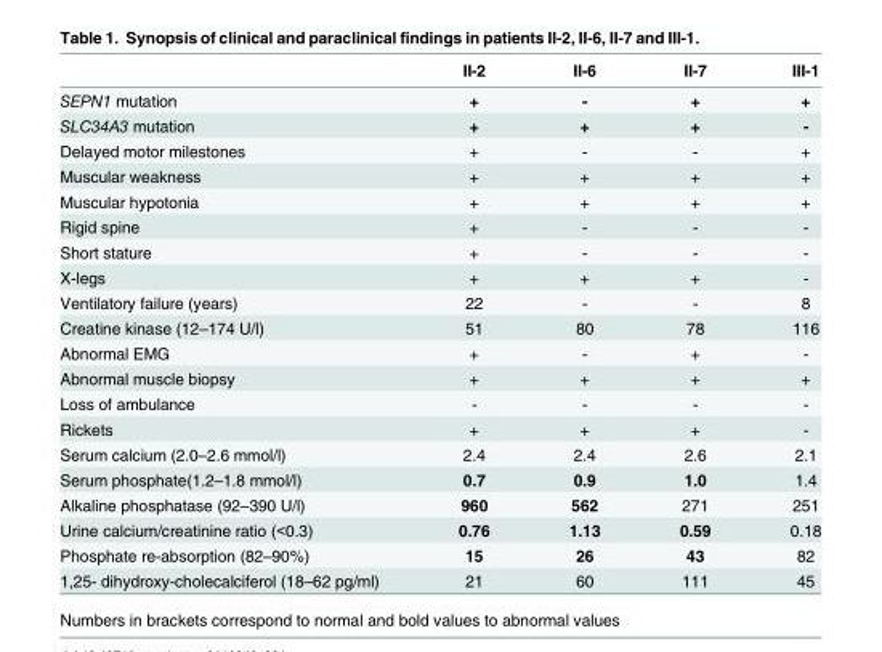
<table><thead><tr><td></td><td>II-2</td><td>II-6</td><td>II-7</td><td>III-1</td></tr></thead><tbody><tr><td>SEPN1 mutation</td><td>+</td><td>-</td><td>+</td><td>+</td></tr><tr><td>SLC34A3 mutation</td><td>+</td><td>+</td><td>+</td><td>-</td></tr><tr><td>Delayed motor milestones</td><td>+</td><td>-</td><td>-</td><td>+</td></tr><tr><td>Muscular weakness</td><td>+</td><td>+</td><td>+</td><td>+</td></tr><tr><td>Muscular hypotonia</td><td>+</td><td>+</td><td>+</td><td>+</td></tr><tr><td>Rigid spine</td><td>+</td><td>-</td><td>-</td><td>-</td></tr><tr><td>Short stature</td><td>+</td><td>-</td><td>-</td><td>-</td></tr><tr><td>X-legs</td><td>+</td><td>+</td><td>+</td><td>-</td></tr><tr><td>Ventilatory failure (years)</td><td>22</td><td>-</td><td>-</td><td>8</td></tr><tr><td>Creatine kinase (12–174 U/l)</td><td>51</td><td>80</td><td>78</td><td>116</td></tr><tr><td>Abnormal EMG</td><td>+</td><td>-</td><td>+</td><td>-</td></tr><tr><td>Abnormal muscle biopsy</td><td>+</td><td>+</td><td>+</td><td>+</td></tr><tr><td>Loss of ambulance</td><td>-</td><td>-</td><td>-</td><td>-</td></tr><tr><td>Rickets</td><td>+</td><td>+</td><td>+</td><td>-</td></tr><tr><td>Serum calcium (2.0–2.6 mmol/l)</td><td>2.4</td><td>2.4</td><td>2.6</td><td>2.1</td></tr><tr><td>Serum phosphate(1.2–1.8 mmol/l)</td><td>0.7</td><td>0.9</td><td>1.0</td><td>1.4</td></tr><tr><td>Alkaline phosphatase (92–390 U/l)</td><td>960</td><td>562</td><td>271</td><td>251</td></tr><tr><td>Urine calcium/creatinine ratio (&lt;0.3)</td><td>0.76</td><td>1.13</td><td>0.59</td><td>0.18</td></tr><tr><td>Phosphate re-absorption (82–90%)</td><td>15</td><td>26</td><td>43</td><td>82</td></tr><tr><td>1,25- dihydroxy-cholecalciferol (18–62 pg/ml)</td><td>21</td><td>60</td><td>111</td><td>45</td></tr></tbody></table>